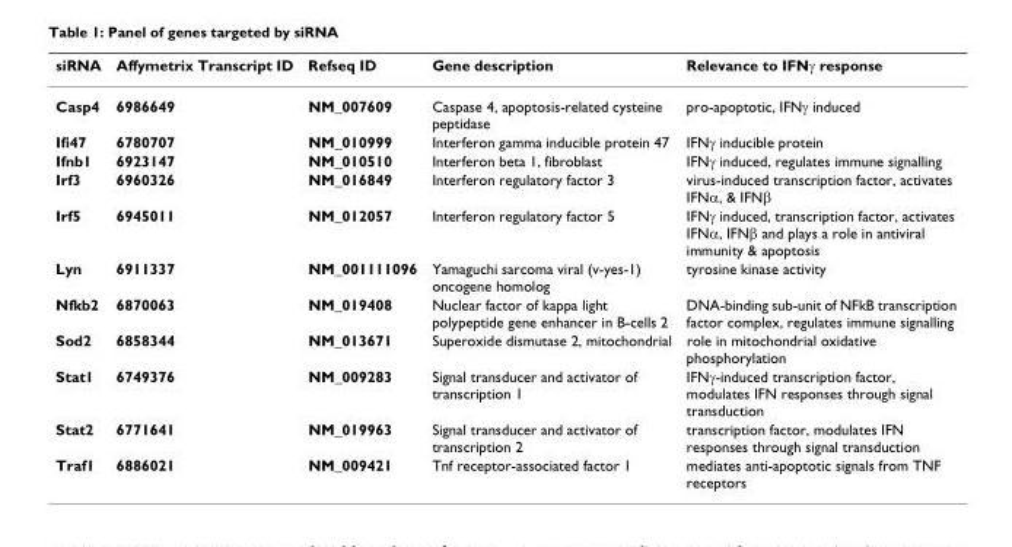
<table><thead><tr><td>siRNA</td><td>Affymetrix Transcript ID</td><td>Refseq ID</td><td>Gene description</td><td>Relevance to IFNγ response</td></tr></thead><tbody><tr><td>Casp4</td><td>6986649</td><td>NM_007609</td><td>Caspase 4, apoptosis-related cysteine peptidase</td><td>pro-apoptotic, IFNγ induced</td></tr><tr><td>Ifi47</td><td>6780707</td><td>NM_010999</td><td>Interferon gamma inducible protein 47</td><td>IFNγ inducible protein</td></tr><tr><td>Ifnb1</td><td>6923147</td><td>NM_010510</td><td>Interferon beta 1, fibroblast</td><td>IFNγ induced, regulates immune signalling</td></tr><tr><td>Irf3</td><td>6960326</td><td>NM_016849</td><td>Interferon regulatory factor 3</td><td>virus-induced transcription factor, activates IFNα, &amp; IFNβ</td></tr><tr><td>Irf5</td><td>6945011</td><td>NM_012057</td><td>Interferon regulatory factor 5</td><td>IFNγ induced, transcription factor, activates IFNα, IFNβ and plays a role in antiviral immunity &amp; apoptosis</td></tr><tr><td>Lyn</td><td>6911337</td><td>NM_001111096</td><td>Yamaguchi sarcoma viral (v-yes-1) oncogene homolog</td><td>tyrosine kinase activity</td></tr><tr><td>Nfkb2</td><td>6870063</td><td>NM_019408</td><td>Nuclear factor of kappa light polypeptide gene enhancer in B-cells 2</td><td>DNA-binding sub-unit of NFkB transcription factor complex, regulates immune signalling</td></tr><tr><td>Sod2</td><td>6858344</td><td>NM_013671</td><td>Superoxide dismutase 2, mitochondrial</td><td>role in mitochondrial oxidative phosphorylation</td></tr><tr><td>Stat1</td><td>6749376</td><td>NM_009283</td><td>Signal transducer and activator of transcription 1</td><td>IFNγ-induced transcription factor, modulates IFN responses through signal transduction</td></tr><tr><td>Stat2</td><td>6771641</td><td>NM_019963</td><td>Signal transducer and activator of transcription 2</td><td>transcription factor, modulates IFN responses through signal transduction</td></tr><tr><td>Traf1</td><td>6886021</td><td>NM_009421</td><td>Tnf receptor-associated factor 1</td><td>mediates anti-apoptotic signals from TNF receptors</td></tr></tbody></table>